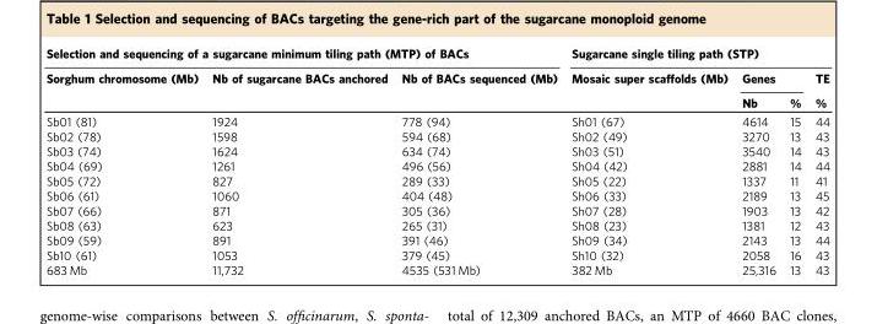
<table><thead><tr><td colspan="3">Selection and sequencing of a sugarcane minimum tiling path (MTP) of BACs</td><td colspan="4">Sugarcane single tiling path (STP)</td></tr><tr><td rowspan="2">Sorghum chromosome (Mb)</td><td rowspan="2">Nb of sugarcane BACs anchored</td><td rowspan="2">Nb of BACs sequenced (Mb)</td><td rowspan="2">Mosaic super scaffolds (Mb)</td><td colspan="2">Genes</td><td rowspan="2">TE %</td></tr><tr><td>Nb</td><td>%</td></tr></thead><tbody><tr><td>Sb01 (81)</td><td>1924</td><td>778 (94)</td><td>Sh01 (67)</td><td>4614</td><td>15</td><td>44</td></tr><tr><td>Sb02 (78)</td><td>1598</td><td>594 (68)</td><td>Sh02 (49)</td><td>3270</td><td>13</td><td>43</td></tr><tr><td>Sb03 (74)</td><td>1624</td><td>634 (74)</td><td>Sh03 (51)</td><td>3540</td><td>14</td><td>43</td></tr><tr><td>Sb04 (69)</td><td>1261</td><td>496 (56)</td><td>Sh04 (42)</td><td>2881</td><td>14</td><td>44</td></tr><tr><td>Sb05 (72)</td><td>827</td><td>289 (33)</td><td>Sh05 (22)</td><td>1337</td><td>11</td><td>41</td></tr><tr><td>Sb06 (61)</td><td>1060</td><td>404 (48)</td><td>Sh06 (33)</td><td>2189</td><td>13</td><td>45</td></tr><tr><td>Sb07 (66)</td><td>871</td><td>305 (36)</td><td>Sh07 (28)</td><td>1903</td><td>13</td><td>42</td></tr><tr><td>Sb08 (63)</td><td>623</td><td>265 (31)</td><td>Sh08 (23)</td><td>1381</td><td>12</td><td>43</td></tr><tr><td>Sb09 (59)</td><td>891</td><td>391 (46)</td><td>Sh09 (34)</td><td>2143</td><td>13</td><td>44</td></tr><tr><td>Sb10 (61)</td><td>1053</td><td>379 (45)</td><td>Sh10 (32)</td><td>2058</td><td>16</td><td>43</td></tr><tr><td>683 Mb</td><td>11,732</td><td>4535 (531 Mb)</td><td>382 Mb</td><td>25,316</td><td>13</td><td>43</td></tr></tbody></table>